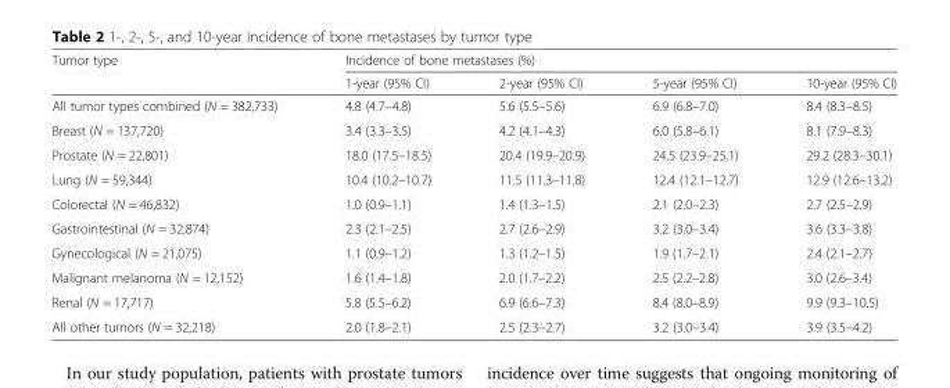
<table><thead><tr><td rowspan="2">Tumor type</td><td colspan="4">Incidence of bone metastases (%)</td></tr><tr><td>1-year (95% CI)</td><td>2-year (95% CI)</td><td>5-year (95% CI)</td><td>10-year (95% CI)</td></tr></thead><tbody><tr><td>All tumor types combined (N = 382,733)</td><td>4.8 (4.7–4.8)</td><td>5.6 (5.5–5.6)</td><td>6.9 (6.8–7.0)</td><td>8.4 (8.3–8.5)</td></tr><tr><td>Breast (N = 137,720)</td><td>3.4 (3.3–3.5)</td><td>4.2 (4.1–4.3)</td><td>6.0 (5.8–6.1)</td><td>8.1 (7.9–8.3)</td></tr><tr><td>Prostate (N = 22,801)</td><td>18.0 (17.5–18.5)</td><td>20.4 (19.9–20.9)</td><td>24.5 (23.9–25.1)</td><td>29.2 (28.3–30.1)</td></tr><tr><td>Lung (N = 59,344)</td><td>10.4 (10.2–10.7)</td><td>11.5 (11.3–11.8)</td><td>12.4 (12.1–12.7)</td><td>12.9 (12.6–13.2)</td></tr><tr><td>Colorectal (N = 46,832)</td><td>1.0 (0.9–1.1)</td><td>1.4 (1.3–1.5)</td><td>2.1 (2.0–2.3)</td><td>2.7 (2.5–2.9)</td></tr><tr><td>Gastrointestinal (N = 32,874)</td><td>2.3 (2.1–2.5)</td><td>2.7 (2.6–2.9)</td><td>3.2 (3.0–3.4)</td><td>3.6 (3.3–3.8)</td></tr><tr><td>Gynecological (N = 21,075)</td><td>1.1 (0.9–1.2)</td><td>1.3 (1.2–1.5)</td><td>1.9 (1.7–2.1)</td><td>2.4 (2.1–2.7)</td></tr><tr><td>Malignant melanoma (N = 12,152)</td><td>1.6 (1.4–1.8)</td><td>2.0 (1.7–2.2)</td><td>2.5 (2.2–2.8)</td><td>3.0 (2.6–3.4)</td></tr><tr><td>Renal (N = 17,717)</td><td>5.8 (5.5–6.2)</td><td>6.9 (6.6–7.3)</td><td>8.4 (8.0–8.9)</td><td>9.9 (9.3–10.5)</td></tr><tr><td>All other tumors (N = 32,218)</td><td>2.0 (1.8–2.1)</td><td>2.5 (2.3–2.7)</td><td>3.2 (3.0–3.4)</td><td>3.9 (3.5–4.2)</td></tr></tbody></table>